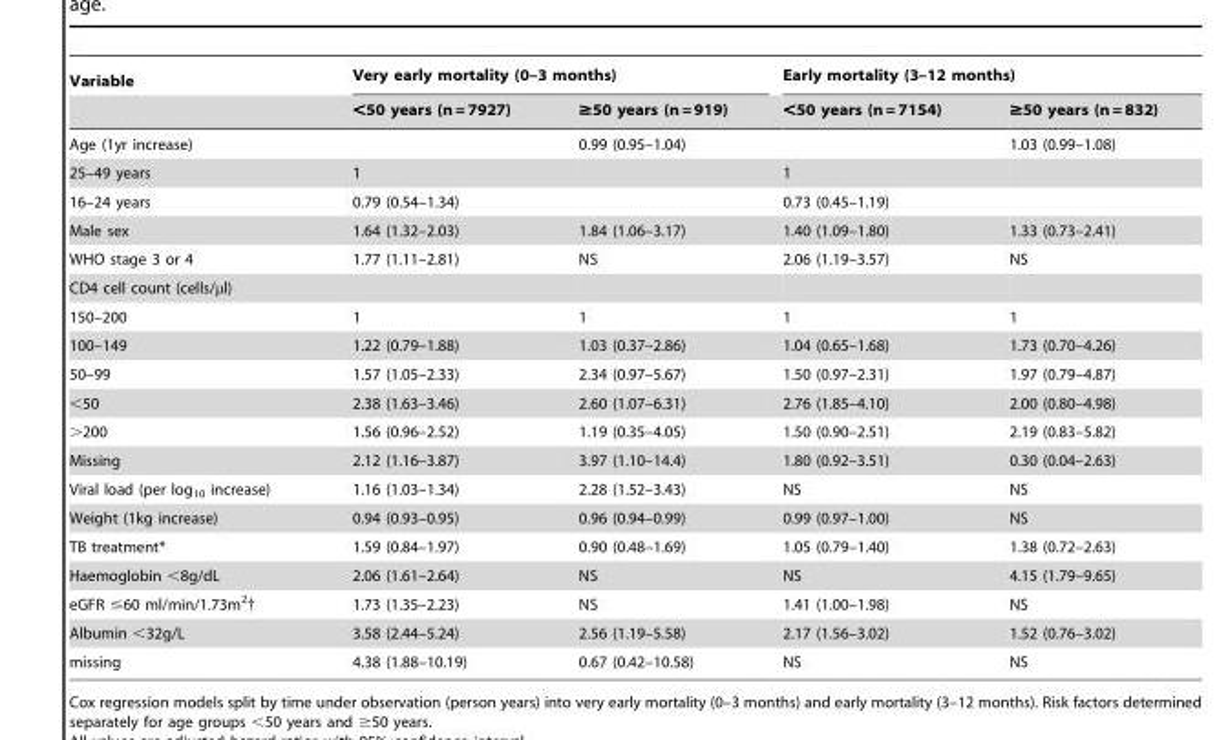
<table><thead><tr><td rowspan="2">Variable</td><td colspan="2">Very early mortality (0–3 months)</td><td colspan="2">Early mortality (3–12 months)</td></tr><tr><td>&lt;50 years (n = 7927)</td><td>≥50 years (n = 919)</td><td>&lt;50 years (n = 7154)</td><td>≥50 years (n = 832)</td></tr></thead><tbody><tr><td>Age (1yr increase)</td><td></td><td>0.99 (0.95–1.04)</td><td></td><td>1.03 (0.99–1.08)</td></tr><tr><td>25–49 years</td><td>1</td><td></td><td>1</td><td></td></tr><tr><td>16–24 years</td><td>0.79 (0.54–1.34)</td><td></td><td>0.73 (0.45–1.19)</td><td></td></tr><tr><td>Male sex</td><td>1.64 (1.32–2.03)</td><td>1.84 (1.06–3.17)</td><td>1.40 (1.09–1.80)</td><td>1.33 (0.73–2.41)</td></tr><tr><td>WHO stage 3 or 4</td><td>1.77 (1.11–2.81)</td><td>NS</td><td>2.06 (1.19–3.57)</td><td>NS</td></tr><tr><td colspan="5">CD4 cell count (cells/μl)</td></tr><tr><td>150–200</td><td>1</td><td>1</td><td>1</td><td>1</td></tr><tr><td>100–149</td><td>1.22 (0.79–1.88)</td><td>1.03 (0.37–2.86)</td><td>1.04 (0.65–1.68)</td><td>1.73 (0.70–4.26)</td></tr><tr><td>50–99</td><td>1.57 (1.05–2.33)</td><td>2.34 (0.97–5.67)</td><td>1.50 (0.97–2.31)</td><td>1.97 (0.79–4.87)</td></tr><tr><td>&lt;50</td><td>2.38 (1.63–3.46)</td><td>2.60 (1.07–6.31)</td><td>2.76 (1.85–4.10)</td><td>2.00 (0.80–4.98)</td></tr><tr><td>&gt;200</td><td>1.56 (0.96–2.52)</td><td>1.19 (0.35–4.05)</td><td>1.50 (0.90–2.51)</td><td>2.19 (0.83–5.82)</td></tr><tr><td>Missing</td><td>2.12 (1.16–3.87)</td><td>3.97 (1.10–14.4)</td><td>1.80 (0.92–3.51)</td><td>0.30 (0.04–2.63)</td></tr><tr><td>Viral load (per log<sub>10</sub> increase)</td><td>1.16 (1.03–1.34)</td><td>2.28 (1.52–3.43)</td><td>NS</td><td>NS</td></tr><tr><td>Weight (1kg increase)</td><td>0.94 (0.93–0.95)</td><td>0.96 (0.94–0.99)</td><td>0.99 (0.97–1.00)</td><td>NS</td></tr><tr><td>TB treatment*</td><td>1.59 (0.84–1.97)</td><td>0.90 (0.48–1.69)</td><td>1.05 (0.79–1.40)</td><td>1.38 (0.72–2.63)</td></tr><tr><td>Haemoglobin &lt;8g/dL</td><td>2.06 (1.61–2.64)</td><td>NS</td><td>NS</td><td>4.15 (1.79–9.65)</td></tr><tr><td>eGFR ≤60 ml/min/1.73m<sup>2</sup>†</td><td>1.73 (1.35–2.23)</td><td>NS</td><td>1.41 (1.00–1.98)</td><td>NS</td></tr><tr><td>Albumin &lt;32g/L</td><td>3.58 (2.44–5.24)</td><td>2.56 (1.19–5.58)</td><td>2.17 (1.56–3.02)</td><td>1.52 (0.76–3.02)</td></tr><tr><td>missing</td><td>4.38 (1.88–10.19)</td><td>0.67 (0.42–10.58)</td><td>NS</td><td>NS</td></tr></tbody></table>